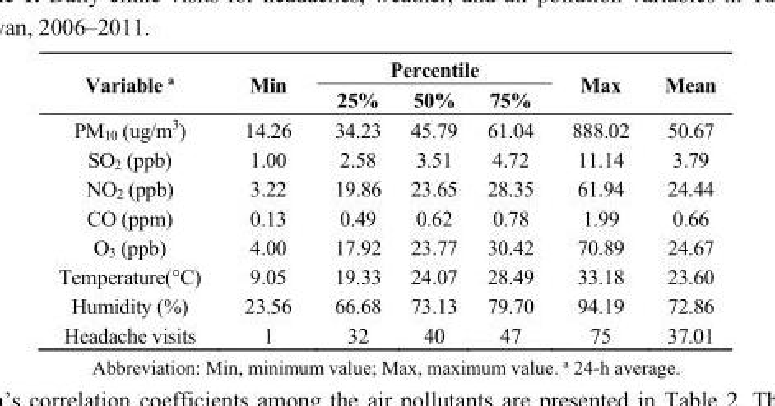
<table><thead><tr><td rowspan="2">Variable <sup>a</sup></td><td rowspan="2">Min</td><td colspan="3">Percentile</td><td rowspan="2">Max</td><td rowspan="2">Mean</td></tr><tr><td>25%</td><td>50%</td><td>75%</td></tr></thead><tbody><tr><td>PM<sub>10</sub> (ug/m<sup>3</sup>)</td><td>14.26</td><td>34.23</td><td>45.79</td><td>61.04</td><td>888.02</td><td>50.67</td></tr><tr><td>SO<sub>2</sub> (ppb)</td><td>1.00</td><td>2.58</td><td>3.51</td><td>4.72</td><td>11.14</td><td>3.79</td></tr><tr><td>NO<sub>2</sub> (ppb)</td><td>3.22</td><td>19.86</td><td>23.65</td><td>28.35</td><td>61.94</td><td>24.44</td></tr><tr><td>CO (ppm)</td><td>0.13</td><td>0.49</td><td>0.62</td><td>0.78</td><td>1.99</td><td>0.66</td></tr><tr><td>O<sub>3</sub> (ppb)</td><td>4.00</td><td>17.92</td><td>23.77</td><td>30.42</td><td>70.89</td><td>24.67</td></tr><tr><td>Temperature(°C)</td><td>9.05</td><td>19.33</td><td>24.07</td><td>28.49</td><td>33.18</td><td>23.60</td></tr><tr><td>Humidity (%)</td><td>23.56</td><td>66.68</td><td>73.13</td><td>79.70</td><td>94.19</td><td>72.86</td></tr><tr><td>Headache visits</td><td>1</td><td>32</td><td>40</td><td>47</td><td>75</td><td>37.01</td></tr></tbody></table>